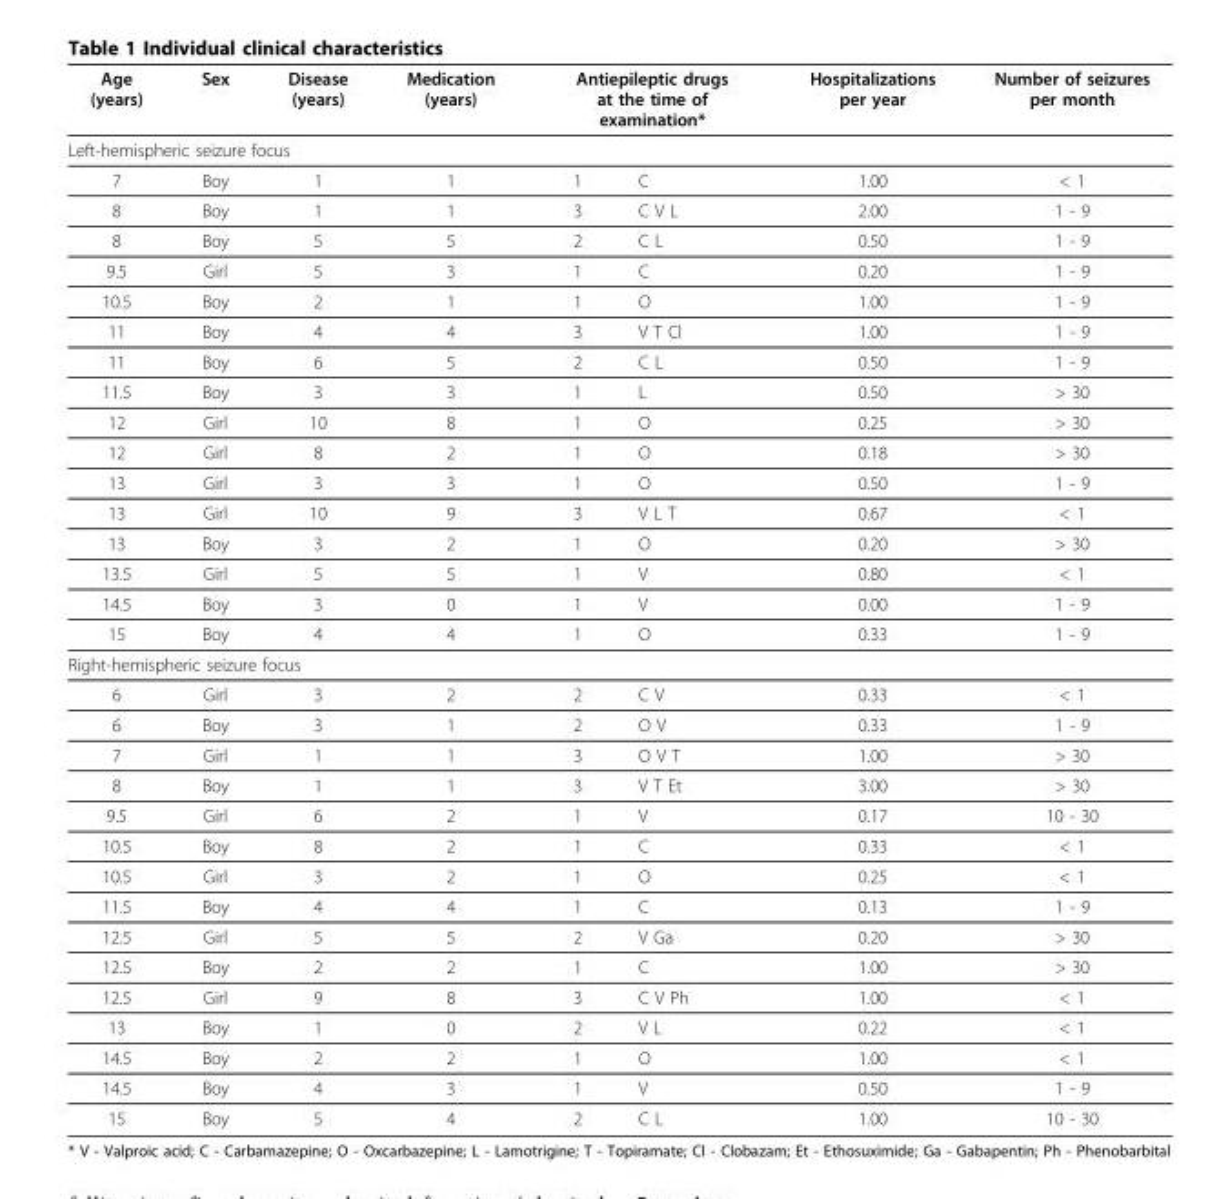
<table><thead><tr><td>Age (years)</td><td>Sex</td><td>Disease (years)</td><td>Medication (years)</td><td colspan="2">Antiepileptic drugs at the time of examination*</td><td>Hospitalizations per year</td><td>Number of seizures per month</td></tr><tr><td colspan="8">Left-hemispheric seizure focus</td></tr><tr><td>7</td><td>Boy</td><td>1</td><td>1</td><td>1</td><td>C</td><td>1.00</td><td>&lt; 1</td></tr></thead><tbody><tr><td>8</td><td>Boy</td><td>1</td><td>1</td><td>3</td><td>C V L</td><td>2.00</td><td>1 - 9</td></tr><tr><td>8</td><td>Boy</td><td>5</td><td>5</td><td>2</td><td>C L</td><td>0.50</td><td>1 - 9</td></tr><tr><td>9.5</td><td>Girl</td><td>5</td><td>3</td><td>1</td><td>C</td><td>0.20</td><td>1 - 9</td></tr><tr><td>10.5</td><td>Boy</td><td>2</td><td>1</td><td>1</td><td>O</td><td>1.00</td><td>1 - 9</td></tr><tr><td>11</td><td>Boy</td><td>4</td><td>4</td><td>3</td><td>V T Cl</td><td>1.00</td><td>1 - 9</td></tr><tr><td>11</td><td>Boy</td><td>6</td><td>5</td><td>2</td><td>C L</td><td>0.50</td><td>1 - 9</td></tr><tr><td>11.5</td><td>Boy</td><td>3</td><td>3</td><td>1</td><td>L</td><td>0.50</td><td>&gt; 30</td></tr><tr><td>12</td><td>Girl</td><td>10</td><td>8</td><td>1</td><td>O</td><td>0.25</td><td>&gt; 30</td></tr><tr><td>12</td><td>Girl</td><td>8</td><td>2</td><td>1</td><td>O</td><td>0.18</td><td>&gt; 30</td></tr><tr><td>13</td><td>Girl</td><td>3</td><td>3</td><td>1</td><td>O</td><td>0.50</td><td>1 - 9</td></tr><tr><td>13</td><td>Girl</td><td>10</td><td>9</td><td>3</td><td>V L T</td><td>0.67</td><td>&lt; 1</td></tr><tr><td>13</td><td>Boy</td><td>3</td><td>2</td><td>1</td><td>O</td><td>0.20</td><td>&gt; 30</td></tr><tr><td>13.5</td><td>Girl</td><td>5</td><td>5</td><td>1</td><td>V</td><td>0.80</td><td>&lt; 1</td></tr><tr><td>14.5</td><td>Boy</td><td>3</td><td>0</td><td>1</td><td>V</td><td>0.00</td><td>1 - 9</td></tr><tr><td>15</td><td>Boy</td><td>4</td><td>4</td><td>1</td><td>O</td><td>0.33</td><td>1 - 9</td></tr><tr><td colspan="8">Right-hemispheric seizure focus</td></tr><tr><td>6</td><td>Girl</td><td>3</td><td>2</td><td>2</td><td>C V</td><td>0.33</td><td>&lt; 1</td></tr><tr><td>6</td><td>Boy</td><td>3</td><td>1</td><td>2</td><td>O V</td><td>0.33</td><td>1 - 9</td></tr><tr><td>7</td><td>Girl</td><td>1</td><td>1</td><td>3</td><td>O V T</td><td>1.00</td><td>&gt; 30</td></tr><tr><td>8</td><td>Boy</td><td>1</td><td>1</td><td>3</td><td>V T Et</td><td>3.00</td><td>&gt; 30</td></tr><tr><td>9.5</td><td>Girl</td><td>6</td><td>2</td><td>1</td><td>V</td><td>0.17</td><td>10 - 30</td></tr><tr><td>10.5</td><td>Boy</td><td>8</td><td>2</td><td>1</td><td>C</td><td>0.33</td><td>&lt; 1</td></tr><tr><td>10.5</td><td>Girl</td><td>3</td><td>2</td><td>1</td><td>O</td><td>0.25</td><td>&lt; 1</td></tr><tr><td>11.5</td><td>Boy</td><td>4</td><td>4</td><td>1</td><td>C</td><td>0.13</td><td>1 - 9</td></tr><tr><td>12.5</td><td>Girl</td><td>5</td><td>5</td><td>2</td><td>V Ga</td><td>0.20</td><td>&gt; 30</td></tr><tr><td>12.5</td><td>Boy</td><td>2</td><td>2</td><td>1</td><td>C</td><td>1.00</td><td>&gt; 30</td></tr><tr><td>12.5</td><td>Girl</td><td>9</td><td>8</td><td>3</td><td>C V Ph</td><td>1.00</td><td>&lt; 1</td></tr><tr><td>13</td><td>Boy</td><td>1</td><td>0</td><td>2</td><td>V L</td><td>0.22</td><td>&lt; 1</td></tr><tr><td>14.5</td><td>Boy</td><td>2</td><td>2</td><td>1</td><td>O</td><td>1.00</td><td>&lt; 1</td></tr><tr><td>14.5</td><td>Boy</td><td>4</td><td>3</td><td>1</td><td>V</td><td>0.50</td><td>1 - 9</td></tr><tr><td>15</td><td>Boy</td><td>5</td><td>4</td><td>2</td><td>C L</td><td>1.00</td><td>10 - 30</td></tr></tbody></table>